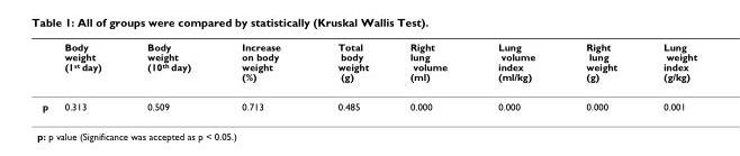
<table><thead><tr><td></td><td>Body weight (1st day)</td><td>Body weight (10th day)</td><td>Increase on body weight (%)</td><td>Total body weight (g)</td><td>Right lung volume (ml)</td><td>Lung volume index (ml/kg)</td><td>Right lung weight (g)</td><td>Lung weight index (g/kg)</td></tr></thead><tbody><tr><td>p</td><td>0.313</td><td>0.509</td><td>0.713</td><td>0.485</td><td>0.000</td><td>0.000</td><td>0.000</td><td>0.001</td></tr></tbody></table>